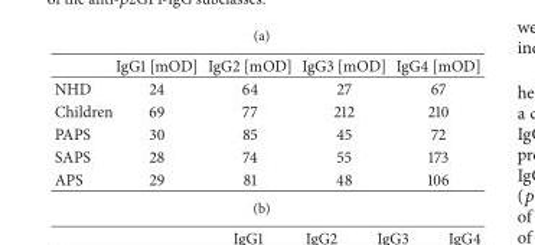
<table><thead><tr><td></td><td>IgG1 [mOD]</td><td>IgG2 [mOD]</td><td>IgG3 [mOD]</td><td>IgG4 [mOD]</td></tr></thead><tbody><tr><td>NHD</td><td>24</td><td>64</td><td>27</td><td>67</td></tr><tr><td>Children</td><td>69</td><td>77</td><td>212</td><td>210</td></tr><tr><td>PAPS</td><td>30</td><td>85</td><td>45</td><td>72</td></tr><tr><td>SAPS</td><td>28</td><td>74</td><td>55</td><td>173</td></tr><tr><td>APS</td><td>29</td><td>81</td><td>48</td><td>106</td></tr></tbody></table>